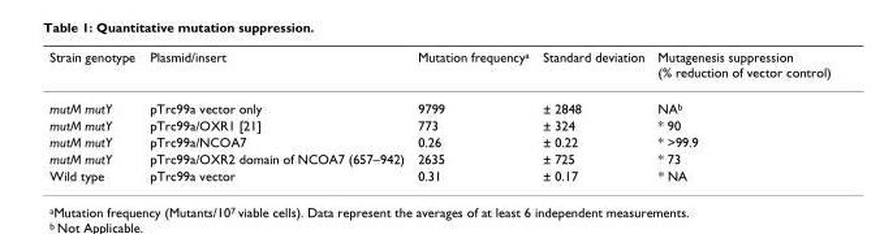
<table><thead><tr><td>Strain genotype</td><td>Plasmid/insert</td><td>Mutation frequency<sup>a</sup></td><td>Standard deviation</td><td>Mutagenesis suppression (% reduction of vector control)</td></tr></thead><tbody><tr><td>mutM mutY</td><td>pTrc99a vector only</td><td>9799</td><td>± 2848</td><td>NA<sup>b</sup></td></tr><tr><td>mutM mutY</td><td>pTrc99a/OXR1 [21]</td><td>773</td><td>± 324</td><td>* 90</td></tr><tr><td>mutM mutY</td><td>pTrc99a/NCOA7</td><td>0.26</td><td>± 0.22</td><td>* &gt;99.9</td></tr><tr><td>mutM mutY</td><td>pTrc99a/OXR2 domain of NCOA7 (657–942)</td><td>2635</td><td>± 725</td><td>* 73</td></tr><tr><td>Wild type</td><td>pTrc99a vector</td><td>0.31</td><td>± 0.17</td><td>* NA</td></tr></tbody></table>